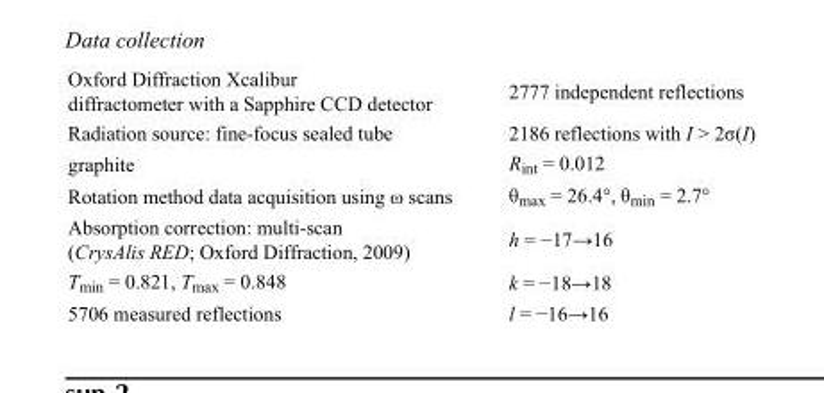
<table><tbody><tr><td>Oxford Diffraction Xcalibur diffractometer with a Sapphire CCD detector</td><td>2777 independent reflections</td></tr><tr><td>Radiation source: fine-focus sealed tube</td><td>2186 reflections with I &gt; 2σ(I)</td></tr><tr><td>graphite</td><td>R<sub>int</sub> = 0.012</td></tr><tr><td>Rotation method data acquisition using ω scans</td><td>θ<sub>max</sub> = 26.4°, θ<sub>min</sub> = 2.7°</td></tr><tr><td>Absorption correction: multi-scan (CrysAlis RED; Oxford Diffraction, 2009)</td><td>h = −17→16</td></tr><tr><td>T<sub>min</sub> = 0.821, T<sub>max</sub> = 0.848</td><td>k = −18→18</td></tr><tr><td>5706 measured reflections</td><td>l = −16→16</td></tr></tbody></table>